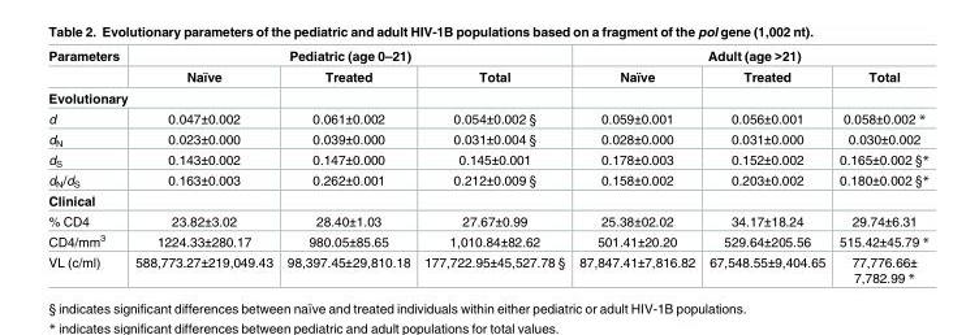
<table><thead><tr><td rowspan="2">Parameters</td><td colspan="3">Pediatric (age 0–21)</td><td colspan="3">Adult (age &gt;21)</td></tr><tr><td>Naïve</td><td>Treated</td><td>Total</td><td>Naïve</td><td>Treated</td><td>Total</td></tr></thead><tbody><tr><td colspan="7">Evolutionary</td></tr><tr><td>d</td><td>0.047±0.002</td><td>0.061±0.002</td><td>0.054±0.002 §</td><td>0.059±0.001</td><td>0.056±0.001</td><td>0.058±0.002 *</td></tr><tr><td>d<sub>N</sub></td><td>0.023±0.000</td><td>0.039±0.000</td><td>0.031±0.004 §</td><td>0.028±0.000</td><td>0.031±0.000</td><td>0.030±0.002</td></tr><tr><td>d<sub>S</sub></td><td>0.143±0.002</td><td>0.147±0.000</td><td>0.145±0.001</td><td>0.178±0.003</td><td>0.152±0.002</td><td>0.165±0.002 §*</td></tr><tr><td>d<sub>N</sub>/d<sub>S</sub></td><td>0.163±0.003</td><td>0.262±0.001</td><td>0.212±0.009 §</td><td>0.158±0.002</td><td>0.203±0.002</td><td>0.180±0.002 §*</td></tr><tr><td colspan="7">Clinical</td></tr><tr><td>% CD4</td><td>23.82±3.02</td><td>28.40±1.03</td><td>27.67±0.99</td><td>25.38±02.02</td><td>34.17±18.24</td><td>29.74±6.31</td></tr><tr><td>CD4/mm<sup>3</sup></td><td>1224.33±280.17</td><td>980.05±85.65</td><td>1,010.84±82.62</td><td>501.41±20.20</td><td>529.64±205.56</td><td>515.42±45.79 *</td></tr><tr><td>VL (c/ml)</td><td>588,773.27±219,049.43</td><td>98,397.45±29,810.18</td><td>177,722.95±45,527.78 §</td><td>87,847.41±7,816.82</td><td>67,548.55±9,404.65</td><td>77,776.66± 7,782.99 *</td></tr></tbody></table>